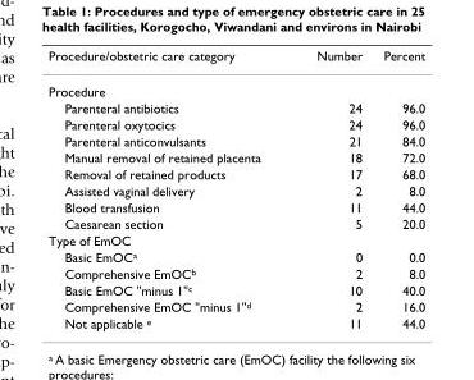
<table><thead><tr><td>Procedure/obstetric care category</td><td>Number</td><td>Percent</td></tr></thead><tbody><tr><td colspan="3">Procedure</td></tr><tr><td>Parenteral antibiotics</td><td>24</td><td>96.0</td></tr><tr><td>Parenteral oxytocics</td><td>24</td><td>96.0</td></tr><tr><td>Parenteral anticonvulsants</td><td>21</td><td>84.0</td></tr><tr><td>Manual removal of retained placenta</td><td>18</td><td>72.0</td></tr><tr><td>Removal of retained products</td><td>17</td><td>68.0</td></tr><tr><td>Assisted vaginal delivery</td><td>2</td><td>8.0</td></tr><tr><td>Blood transfusion</td><td>11</td><td>44.0</td></tr><tr><td>Caesarean section</td><td>5</td><td>20.0</td></tr><tr><td colspan="3">Type of EmOC</td></tr><tr><td>Basic EmOC<sup>a</sup></td><td>0</td><td>0.0</td></tr><tr><td>Comprehensive EmOC<sup>b</sup></td><td>2</td><td>8.0</td></tr><tr><td>Basic EmOC &quot;minus 1&quot;<sup>c</sup></td><td>10</td><td>40.0</td></tr><tr><td>Comprehensive EmOC &quot;minus 1&quot;<sup>d</sup></td><td>2</td><td>16.0</td></tr><tr><td>Not applicable <sup>e</sup></td><td>11</td><td>44.0</td></tr></tbody></table>